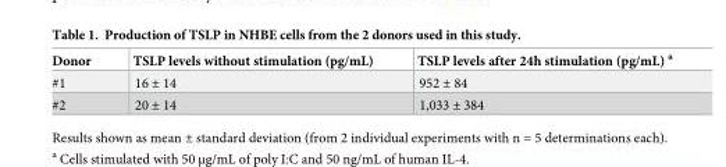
<table><thead><tr><td>Donor</td><td>TSLP levels without stimulation (pg/mL)</td><td>TSLP levels after 24h stimulation (pg/mL) <sup>a</sup></td></tr></thead><tbody><tr><td>#1</td><td>16 ± 14</td><td>952 ± 84</td></tr><tr><td>#2</td><td>20 ± 14</td><td>1,033 ± 384</td></tr></tbody></table>